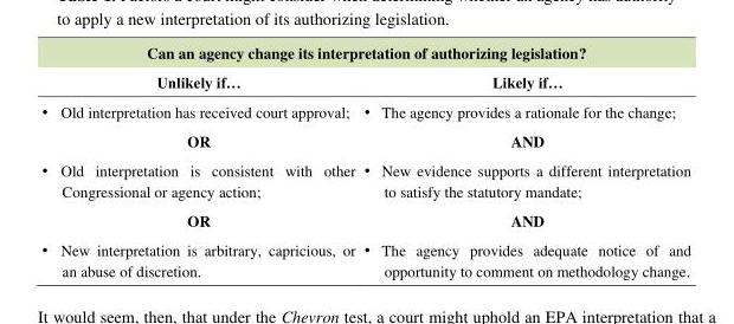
<table><thead><tr><td colspan="2">Can an agency change its interpretation of authorizing legislation?</td></tr><tr><td>Unlikely if…</td><td>Likely if…</td></tr></thead><tbody><tr><td>• Old interpretation has received court approval;</td><td>• The agency provides a rationale for the change;</td></tr><tr><td>OR</td><td>AND</td></tr><tr><td>• Old interpretation is consistent with other Congressional or agency action;</td><td>• New evidence supports a different interpretation to satisfy the statutory mandate;</td></tr><tr><td>OR</td><td>AND</td></tr><tr><td>• New interpretation is arbitrary, capricious, or an abuse of discretion.</td><td>• The agency provides adequate notice of and opportunity to comment on methodology change.</td></tr></tbody></table>